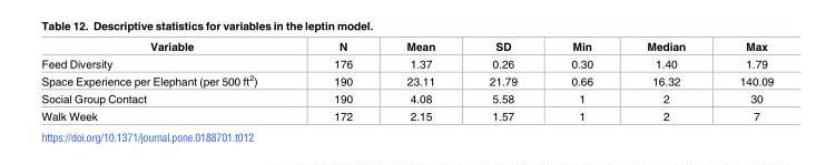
<table><thead><tr><td>Variable</td><td>N</td><td>Mean</td><td>SD</td><td>Min</td><td>Median</td><td>Max</td></tr></thead><tbody><tr><td>Feed Diversity</td><td>176</td><td>1.37</td><td>0.26</td><td>0.30</td><td>1.40</td><td>1.79</td></tr><tr><td>Space Experience per Elephant (per 500 ft<sup>2</sup>)</td><td>190</td><td>23.11</td><td>21.79</td><td>0.66</td><td>16.32</td><td>140.09</td></tr><tr><td>Social Group Contact</td><td>190</td><td>4.08</td><td>5.58</td><td>1</td><td>2</td><td>30</td></tr><tr><td>Walk Week</td><td>172</td><td>2.15</td><td>1.57</td><td>1</td><td>2</td><td>7</td></tr></tbody></table>